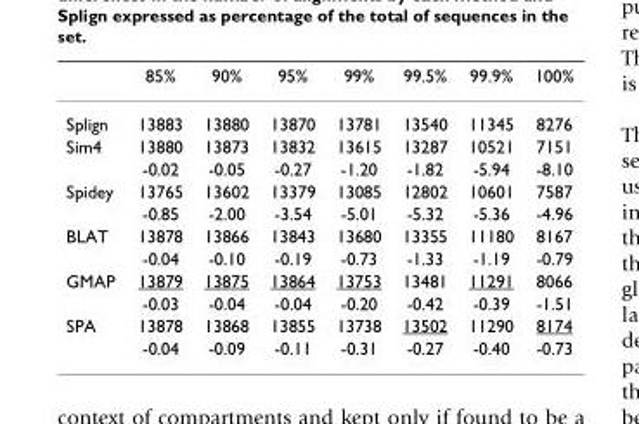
<table><thead><tr><td></td><td>85%</td><td>90%</td><td>95%</td><td>99%</td><td>99.5%</td><td>99.9%</td><td>100%</td></tr></thead><tbody><tr><td>Splign</td><td>13883</td><td>13880</td><td>13870</td><td>13781</td><td>13540</td><td>11345</td><td>8276</td></tr><tr><td rowspan="2">Sim4</td><td>13880</td><td>13873</td><td>13832</td><td>13615</td><td>13287</td><td>10521</td><td>7151</td></tr><tr><td>-0.02</td><td>-0.05</td><td>-0.27</td><td>-1.20</td><td>-1.82</td><td>-5.94</td><td>-8.10</td></tr><tr><td rowspan="2">Spidey</td><td>13765</td><td>13602</td><td>13379</td><td>13085</td><td>12802</td><td>10601</td><td>7587</td></tr><tr><td>-0.85</td><td>-2.00</td><td>-3.54</td><td>-5.01</td><td>-5.32</td><td>-5.36</td><td>-4.96</td></tr><tr><td rowspan="2">BLAT</td><td>13878</td><td>13866</td><td>13843</td><td>13680</td><td>13355</td><td>11180</td><td>8167</td></tr><tr><td>-0.04</td><td>-0.10</td><td>-0.19</td><td>-0.73</td><td>-1.33</td><td>-1.19</td><td>-0.79</td></tr><tr><td rowspan="2">GMAP</td><td>13879</td><td>13875</td><td>13864</td><td>13753</td><td>13481</td><td>11291</td><td>8066</td></tr><tr><td>-0.03</td><td>-0.04</td><td>-0.04</td><td>-0.20</td><td>-0.42</td><td>-0.39</td><td>-1.51</td></tr><tr><td rowspan="2">SPA</td><td>13878</td><td>13868</td><td>13855</td><td>13738</td><td>13502</td><td>11290</td><td>8174</td></tr><tr><td>-0.04</td><td>-0.09</td><td>-0.11</td><td>-0.31</td><td>-0.27</td><td>-0.40</td><td>-0.73</td></tr></tbody></table>